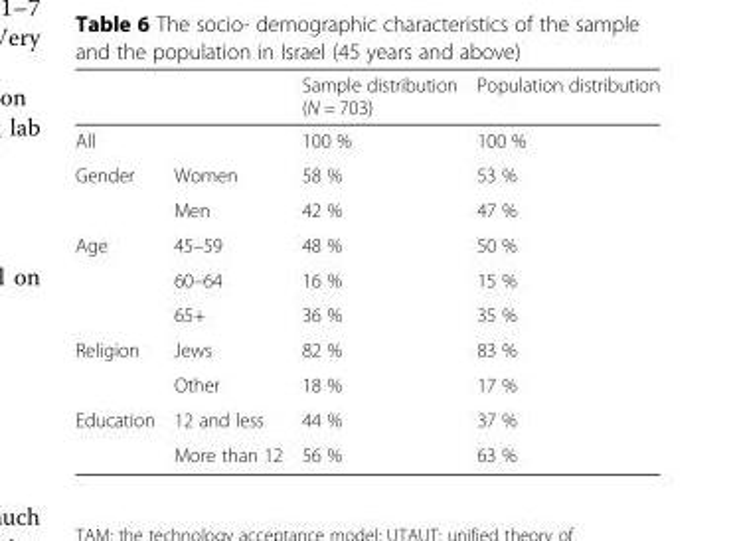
<table><thead><tr><td></td><td></td><td>Sample distribution (N = 703)</td><td>Population distribution</td></tr></thead><tbody><tr><td>All</td><td></td><td>100 %</td><td>100 %</td></tr><tr><td rowspan="2">Gender</td><td>Women</td><td>58 %</td><td>53 %</td></tr><tr><td>Men</td><td>42 %</td><td>47 %</td></tr><tr><td rowspan="3">Age</td><td>45–59</td><td>48 %</td><td>50 %</td></tr><tr><td>60–64</td><td>16 %</td><td>15 %</td></tr><tr><td>65+</td><td>36 %</td><td>35 %</td></tr><tr><td rowspan="2">Religion</td><td>Jews</td><td>82 %</td><td>83 %</td></tr><tr><td>Other</td><td>18 %</td><td>17 %</td></tr><tr><td rowspan="2">Education</td><td>12 and less</td><td>44 %</td><td>37 %</td></tr><tr><td>More than 12</td><td>56 %</td><td>63 %</td></tr></tbody></table>